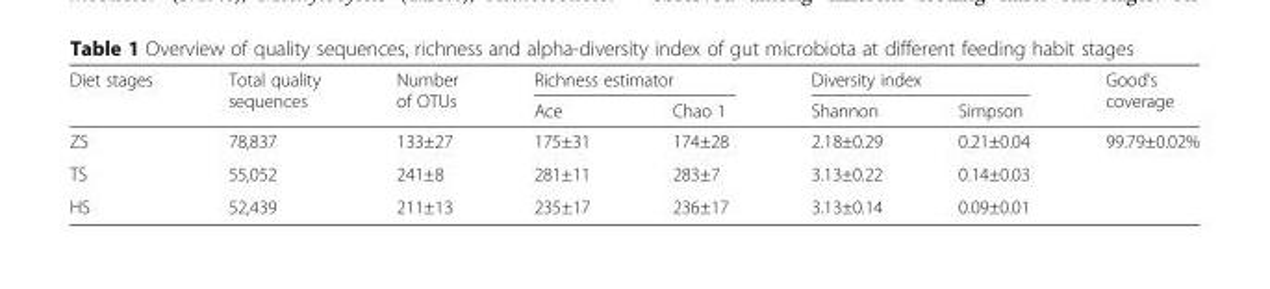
<table><thead><tr><td rowspan="2">Diet stages</td><td rowspan="2">Total quality sequences</td><td rowspan="2">Number of OTUs</td><td colspan="2">Richness estimator</td><td colspan="2">Diversity index</td><td rowspan="2">Good’s coverage</td></tr><tr><td>Ace</td><td>Chao 1</td><td>Shannon</td><td>Simpson</td></tr></thead><tbody><tr><td>ZS</td><td>78,837</td><td>133±27</td><td>175±31</td><td>174±28</td><td>2.18±0.29</td><td>0.21±0.04</td><td rowspan="3">99.79±0.02%</td></tr><tr><td>TS</td><td>55,052</td><td>241±8</td><td>281±11</td><td>283±7</td><td>3.13±0.22</td><td>0.14±0.03</td></tr><tr><td>HS</td><td>52,439</td><td>211±13</td><td>235±17</td><td>236±17</td><td>3.13±0.14</td><td>0.09±0.01</td></tr></tbody></table>